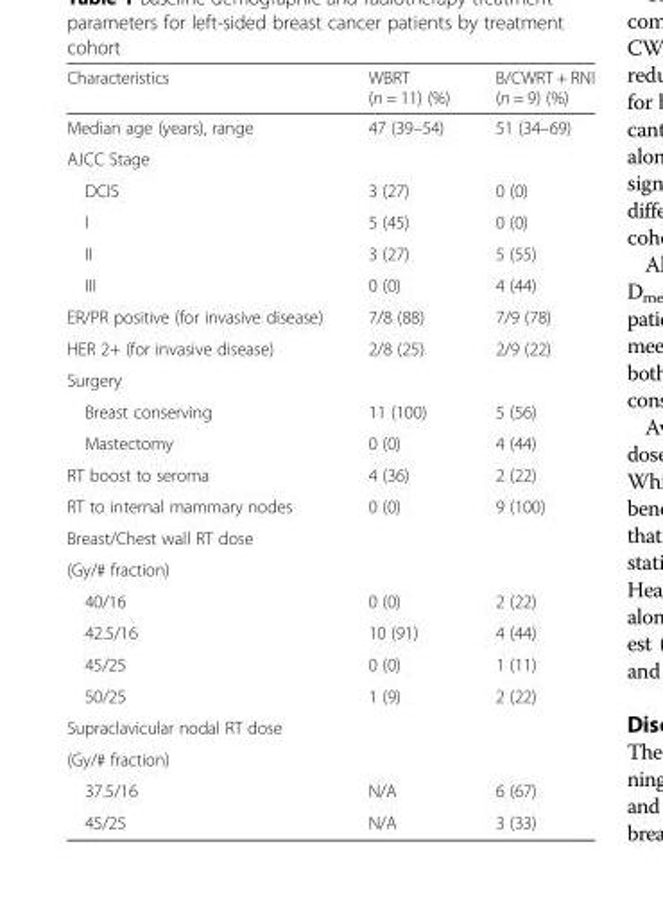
<table><thead><tr><td>Characteristics</td><td>WBRT (n = 11) (%)</td><td>B/CWRT + RNI (n = 9) (%)</td></tr></thead><tbody><tr><td>Median age (years), range</td><td>47 (39–54)</td><td>51 (34–69)</td></tr><tr><td colspan="3">AJCC Stage</td></tr><tr><td>DCIS</td><td>3 (27)</td><td>0 (0)</td></tr><tr><td>I</td><td>5 (45)</td><td>0 (0)</td></tr><tr><td>II</td><td>3 (27)</td><td>5 (55)</td></tr><tr><td>III</td><td>0 (0)</td><td>4 (44)</td></tr><tr><td>ER/PR positive (for invasive disease)</td><td>7/8 (88)</td><td>7/9 (78)</td></tr><tr><td>HER 2+ (for invasive disease)</td><td>2/8 (25)</td><td>2/9 (22)</td></tr><tr><td colspan="3">Surgery</td></tr><tr><td>Breast conserving</td><td>11 (100)</td><td>5 (56)</td></tr><tr><td>Mastectomy</td><td>0 (0)</td><td>4 (44)</td></tr><tr><td>RT boost to seroma</td><td>4 (36)</td><td>2 (22)</td></tr><tr><td>RT to internal mammary nodes</td><td>0 (0)</td><td>9 (100)</td></tr><tr><td colspan="3">Breast/Chest wall RT dose</td></tr><tr><td colspan="3">(Gy/# fraction)</td></tr><tr><td>40/16</td><td>0 (0)</td><td>2 (22)</td></tr><tr><td>42.5/16</td><td>10 (91)</td><td>4 (44)</td></tr><tr><td>45/25</td><td>0 (0)</td><td>1 (11)</td></tr><tr><td>50/25</td><td>1 (9)</td><td>2 (22)</td></tr><tr><td colspan="3">Supraclavicular nodal RT dose</td></tr><tr><td colspan="3">(Gy/# fraction)</td></tr><tr><td>37.5/16</td><td>N/A</td><td>6 (67)</td></tr><tr><td>45/25</td><td>N/A</td><td>3 (33)</td></tr></tbody></table>